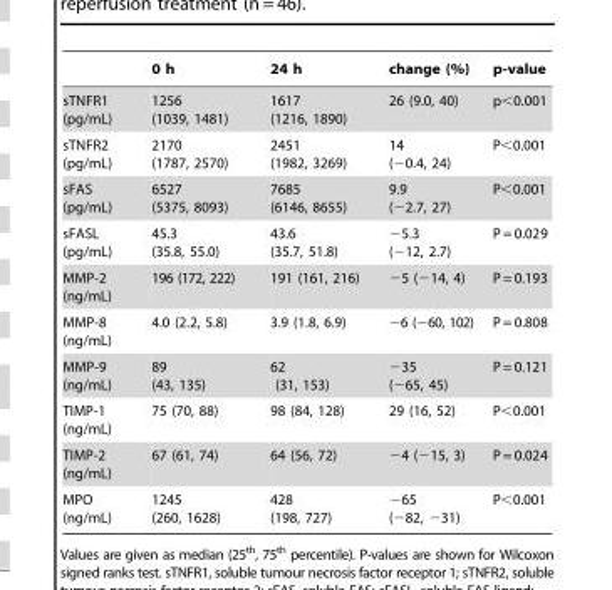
<table><thead><tr><td></td><td>0 h</td><td>24 h</td><td>change (%)</td><td>p-value</td></tr></thead><tbody><tr><td>sTNFR1 (pg/mL)</td><td>1256 (1039, 1481)</td><td>1617 (1216, 1890)</td><td>26 (9.0, 40)</td><td>p&lt;0.001</td></tr><tr><td>sTNFR2 (pg/mL)</td><td>2170 (1787, 2570)</td><td>2451 (1982, 3269)</td><td>14 (−0.4, 24)</td><td>P&lt;0.001</td></tr><tr><td>sFAS (pg/mL)</td><td>6527 (5375, 8093)</td><td>7685 (6146, 8655)</td><td>9.9 (−2.7, 27)</td><td>P&lt;0.001</td></tr><tr><td>sFASL (pg/mL)</td><td>45.3 (35.8, 55.0)</td><td>43.6 (35.7, 51.8)</td><td>−5.3 (−12, 2.7)</td><td>P = 0.029</td></tr><tr><td>MMP-2 (ng/mL)</td><td>196 (172, 222)</td><td>191 (161, 216)</td><td>−5 (−14, 4)</td><td>P = 0.193</td></tr><tr><td>MMP-8 (ng/mL)</td><td>4.0 (2.2, 5.8)</td><td>3.9 (1.8, 6.9)</td><td>−6 (−60, 102)</td><td>P = 0.808</td></tr><tr><td>MMP-9 (ng/mL)</td><td>89 (43, 135)</td><td>62 (31, 153)</td><td>−35 (−65, 45)</td><td>P = 0.121</td></tr><tr><td>TIMP-1 (ng/mL)</td><td>75 (70, 88)</td><td>98 (84, 128)</td><td>29 (16, 52)</td><td>P&lt;0.001</td></tr><tr><td>TIMP-2 (ng/mL)</td><td>67 (61, 74)</td><td>64 (56, 72)</td><td>−4 (−15, 3)</td><td>P = 0.024</td></tr><tr><td>MPO (ng/mL)</td><td>1245 (260, 1628)</td><td>428 (198, 727)</td><td>−65 (−82, −31)</td><td>P&lt;0.001</td></tr></tbody></table>